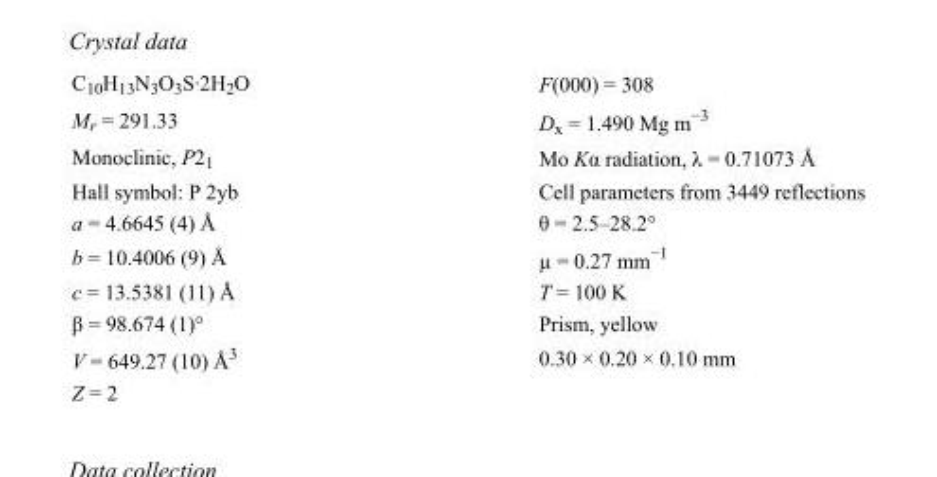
<table><tbody><tr><td>C<sub>10</sub>H<sub>13</sub>N<sub>3</sub>O<sub>3</sub>S·2H<sub>2</sub>O</td><td>F(000) = 308</td></tr><tr><td>M<sub>r</sub> = 291.33</td><td>D<sub>x</sub> = 1.490 Mg m<sup>−3</sup></td></tr><tr><td>Monoclinic, P2<sub>1</sub></td><td>Mo Kα radiation, λ = 0.71073 Å</td></tr><tr><td>Hall symbol: P 2yb</td><td>Cell parameters from 3449 reflections</td></tr><tr><td>a = 4.6645 (4) Å</td><td>θ = 2.5–28.2°</td></tr><tr><td>b = 10.4006 (9) Å</td><td>µ = 0.27 mm<sup>−1</sup></td></tr><tr><td>c = 13.5381 (11) Å</td><td>T = 100 K</td></tr><tr><td>β = 98.674 (1)°</td><td>Prism, yellow</td></tr><tr><td>V = 649.27 (10) Å<sup>3</sup></td><td>0.30 × 0.20 × 0.10 mm</td></tr><tr><td>Z = 2</td><td></td></tr></tbody></table>